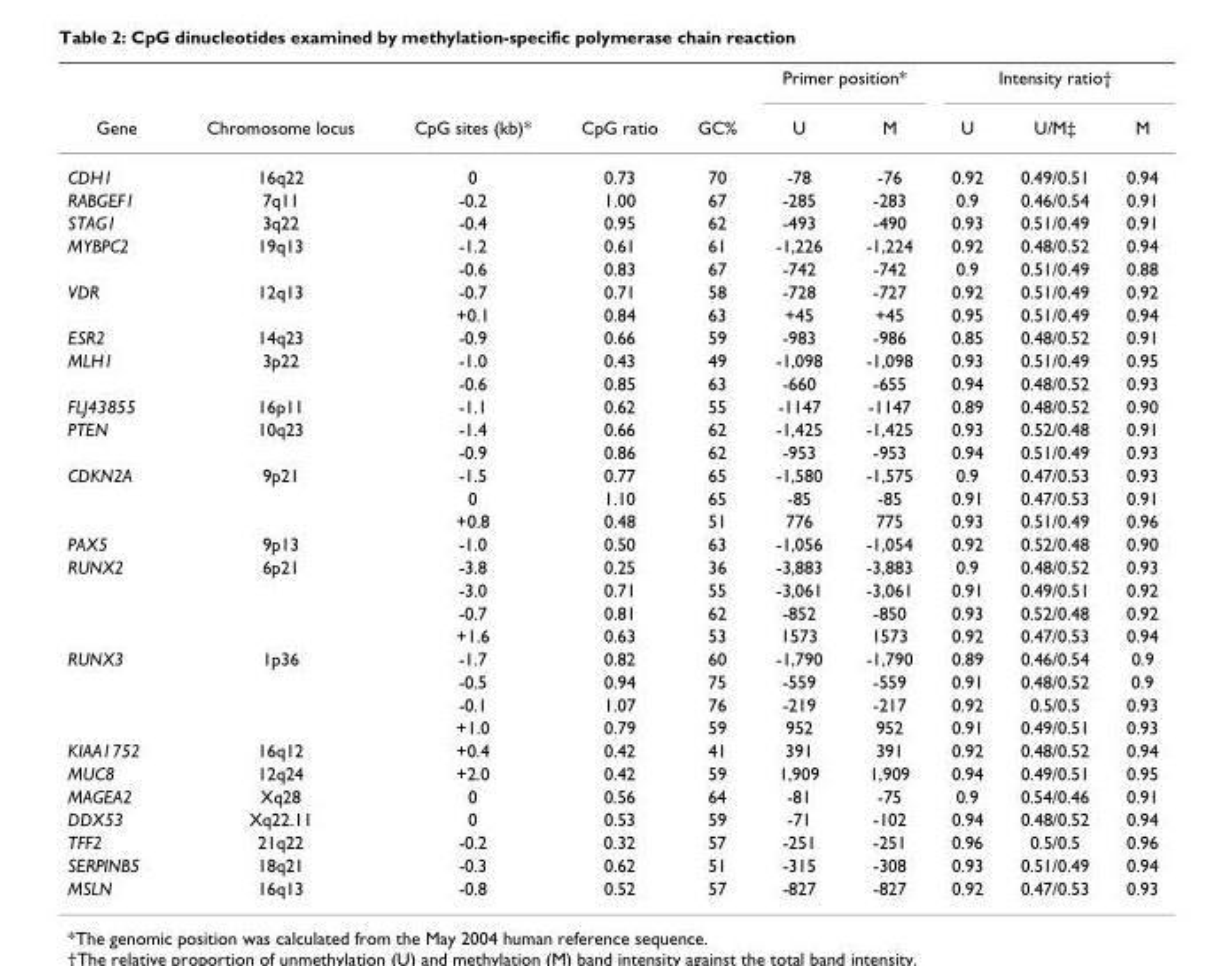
<table><thead><tr><td rowspan="2">Gene</td><td rowspan="2">Chromosome locus</td><td rowspan="2">CpG sites (kb)*</td><td rowspan="2">CpG ratio</td><td rowspan="2">GC%</td><td colspan="2">Primer position*</td><td colspan="3">Intensity ratio†</td></tr><tr><td>U</td><td>M</td><td>U</td><td>U/M‡</td><td>M</td></tr></thead><tbody><tr><td>CDH1</td><td>16q22</td><td>0</td><td>0.73</td><td>70</td><td>-78</td><td>-76</td><td>0.92</td><td>0.49/0.51</td><td>0.94</td></tr><tr><td>RABGEF1</td><td>7q11</td><td>-0.2</td><td>1.00</td><td>67</td><td>-285</td><td>-283</td><td>0.9</td><td>0.46/0.54</td><td>0.91</td></tr><tr><td>STAG1</td><td>3q22</td><td>-0.4</td><td>0.95</td><td>62</td><td>-493</td><td>-490</td><td>0.93</td><td>0.51/0.49</td><td>0.91</td></tr><tr><td rowspan="2">MYBPC2</td><td>19q13</td><td>-1.2</td><td>0.61</td><td>61</td><td>-1,226</td><td>-1,224</td><td>0.92</td><td>0.48/0.52</td><td>0.94</td></tr><tr><td></td><td>-0.6</td><td>0.83</td><td>67</td><td>-742</td><td>-742</td><td>0.9</td><td>0.51/0.49</td><td>0.88</td></tr><tr><td rowspan="2">VDR</td><td>12q13</td><td>-0.7</td><td>0.71</td><td>58</td><td>-728</td><td>-727</td><td>0.92</td><td>0.51/0.49</td><td>0.92</td></tr><tr><td></td><td>+0.1</td><td>0.84</td><td>63</td><td>+45</td><td>+45</td><td>0.95</td><td>0.51/0.49</td><td>0.94</td></tr><tr><td>ESR2</td><td>14q23</td><td>-0.9</td><td>0.66</td><td>59</td><td>-983</td><td>-986</td><td>0.85</td><td>0.48/0.52</td><td>0.91</td></tr><tr><td rowspan="2">MLH1</td><td>3p22</td><td>-1.0</td><td>0.43</td><td>49</td><td>-1,098</td><td>-1,098</td><td>0.93</td><td>0.51/0.49</td><td>0.95</td></tr><tr><td></td><td>-0.6</td><td>0.85</td><td>63</td><td>-660</td><td>-655</td><td>0.94</td><td>0.48/0.52</td><td>0.93</td></tr><tr><td>FLJ43855</td><td>16p11</td><td>-1.1</td><td>0.62</td><td>55</td><td>-1147</td><td>-1147</td><td>0.89</td><td>0.48/0.52</td><td>0.90</td></tr><tr><td rowspan="2">PTEN</td><td>10q23</td><td>-1.4</td><td>0.66</td><td>62</td><td>-1,425</td><td>-1,425</td><td>0.93</td><td>0.52/0.48</td><td>0.91</td></tr><tr><td></td><td>-0.9</td><td>0.86</td><td>62</td><td>-953</td><td>-953</td><td>0.94</td><td>0.51/0.49</td><td>0.93</td></tr><tr><td rowspan="3">CDKN2A</td><td>9p21</td><td>-1.5</td><td>0.77</td><td>65</td><td>-1,580</td><td>-1,575</td><td>0.9</td><td>0.47/0.53</td><td>0.93</td></tr><tr><td></td><td>0</td><td>1.10</td><td>65</td><td>-85</td><td>-85</td><td>0.91</td><td>0.47/0.53</td><td>0.91</td></tr><tr><td></td><td>+0.8</td><td>0.48</td><td>51</td><td>776</td><td>775</td><td>0.93</td><td>0.51/0.49</td><td>0.96</td></tr><tr><td>PAX5</td><td>9p13</td><td>-1.0</td><td>0.50</td><td>63</td><td>-1,056</td><td>-1,054</td><td>0.92</td><td>0.52/0.48</td><td>0.90</td></tr><tr><td rowspan="4">RUNX2</td><td>6p21</td><td>-3.8</td><td>0.25</td><td>36</td><td>-3,883</td><td>-3,883</td><td>0.9</td><td>0.48/0.52</td><td>0.93</td></tr><tr><td></td><td>-3.0</td><td>0.71</td><td>55</td><td>-3,061</td><td>-3,061</td><td>0.91</td><td>0.49/0.51</td><td>0.92</td></tr><tr><td></td><td>-0.7</td><td>0.81</td><td>62</td><td>-852</td><td>-850</td><td>0.93</td><td>0.52/0.48</td><td>0.92</td></tr><tr><td></td><td>+1.6</td><td>0.63</td><td>53</td><td>1573</td><td>1573</td><td>0.92</td><td>0.47/0.53</td><td>0.94</td></tr><tr><td rowspan="4">RUNX3</td><td>1p36</td><td>-1.7</td><td>0.82</td><td>60</td><td>-1,790</td><td>-1,790</td><td>0.89</td><td>0.46/0.54</td><td>0.9</td></tr><tr><td></td><td>-0.5</td><td>0.94</td><td>75</td><td>-559</td><td>-559</td><td>0.91</td><td>0.48/0.52</td><td>0.9</td></tr><tr><td></td><td>-0.1</td><td>1.07</td><td>76</td><td>-219</td><td>-217</td><td>0.92</td><td>0.5/0.5</td><td>0.93</td></tr><tr><td></td><td>+1.0</td><td>0.79</td><td>59</td><td>952</td><td>952</td><td>0.91</td><td>0.49/0.51</td><td>0.93</td></tr><tr><td>KIAA1752</td><td>16q12</td><td>+0.4</td><td>0.42</td><td>41</td><td>391</td><td>391</td><td>0.92</td><td>0.48/0.52</td><td>0.94</td></tr><tr><td>MUC8</td><td>12q24</td><td>+2.0</td><td>0.42</td><td>59</td><td>1,909</td><td>1,909</td><td>0.94</td><td>0.49/0.51</td><td>0.95</td></tr><tr><td>MAGEA2</td><td>Xq28</td><td>0</td><td>0.56</td><td>64</td><td>-81</td><td>-75</td><td>0.9</td><td>0.54/0.46</td><td>0.91</td></tr><tr><td>DDX53</td><td>Xq22.11</td><td>0</td><td>0.53</td><td>59</td><td>-71</td><td>-102</td><td>0.94</td><td>0.48/0.52</td><td>0.94</td></tr><tr><td>TFF2</td><td>21q22</td><td>-0.2</td><td>0.32</td><td>57</td><td>-251</td><td>-251</td><td>0.96</td><td>0.5/0.5</td><td>0.96</td></tr><tr><td>SERPINB5</td><td>18q21</td><td>-0.3</td><td>0.62</td><td>51</td><td>-315</td><td>-308</td><td>0.93</td><td>0.51/0.49</td><td>0.94</td></tr><tr><td>MSLN</td><td>16q13</td><td>-0.8</td><td>0.52</td><td>57</td><td>-827</td><td>-827</td><td>0.92</td><td>0.47/0.53</td><td>0.93</td></tr></tbody></table>